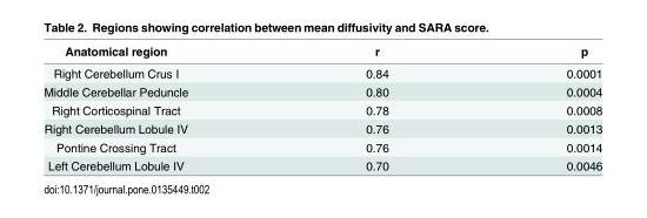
<table><thead><tr><td>Anatomical region</td><td>r</td><td>p</td></tr></thead><tbody><tr><td>Right Cerebellum Crus I</td><td>0.84</td><td>0.0001</td></tr><tr><td>Middle Cerebellar Peduncle</td><td>0.80</td><td>0.0004</td></tr><tr><td>Right Corticospinal Tract</td><td>0.78</td><td>0.0008</td></tr><tr><td>Right Cerebellum Lobule IV</td><td>0.76</td><td>0.0013</td></tr><tr><td>Pontine Crossing Tract</td><td>0.76</td><td>0.0014</td></tr><tr><td>Left Cerebellum Lobule IV</td><td>0.70</td><td>0.0046</td></tr></tbody></table>